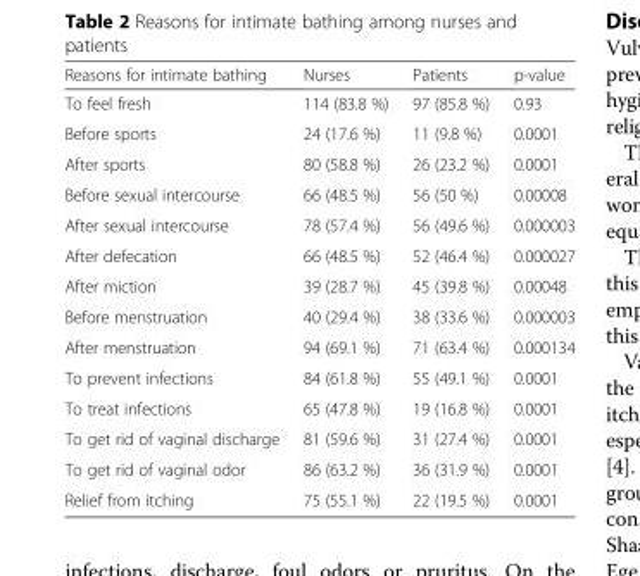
<table><thead><tr><td>Reasons for intimate bathing</td><td>Nurses</td><td>Patients</td><td>p-value</td></tr></thead><tbody><tr><td>To feel fresh</td><td>114 (83.8 %)</td><td>97 (85.8 %)</td><td>0.93</td></tr><tr><td>Before sports</td><td>24 (17.6 %)</td><td>11 (9.8 %)</td><td>0.0001</td></tr><tr><td>After sports</td><td>80 (58.8 %)</td><td>26 (23.2 %)</td><td>0.0001</td></tr><tr><td>Before sexual intercourse</td><td>66 (48.5 %)</td><td>56 (50 %)</td><td>0.00008</td></tr><tr><td>After sexual intercourse</td><td>78 (57.4 %)</td><td>56 (49.6 %)</td><td>0.000003</td></tr><tr><td>After defecation</td><td>66 (48.5 %)</td><td>52 (46.4 %)</td><td>0.000027</td></tr><tr><td>After miction</td><td>39 (28.7 %)</td><td>45 (39.8 %)</td><td>0.00048</td></tr><tr><td>Before menstruation</td><td>40 (29.4 %)</td><td>38 (33.6 %)</td><td>0.000003</td></tr><tr><td>After menstruation</td><td>94 (69.1 %)</td><td>71 (63.4 %)</td><td>0.000134</td></tr><tr><td>To prevent infections</td><td>84 (61.8 %)</td><td>55 (49.1 %)</td><td>0.0001</td></tr><tr><td>To treat infections</td><td>65 (47.8 %)</td><td>19 (16.8 %)</td><td>0.0001</td></tr><tr><td>To get rid of vaginal discharge</td><td>81 (59.6 %)</td><td>31 (27.4 %)</td><td>0.0001</td></tr><tr><td>To get rid of vaginal odor</td><td>86 (63.2 %)</td><td>36 (31.9 %)</td><td>0.0001</td></tr><tr><td>Relief from itching</td><td>75 (55.1 %)</td><td>22 (19.5 %)</td><td>0.0001</td></tr></tbody></table>